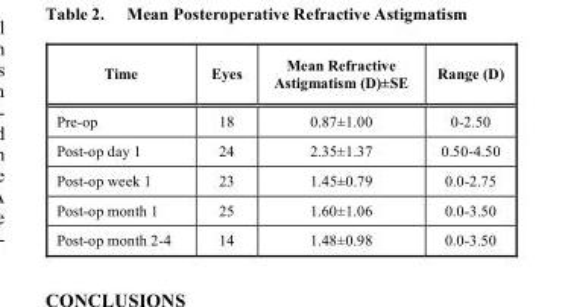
<table><thead><tr><td>Time</td><td>Eyes</td><td>Mean Refractive Astigmatism (D)±SE</td><td>Range (D)</td></tr></thead><tbody><tr><td>Pre-op</td><td>18</td><td>0.87±1.00</td><td>0-2.50</td></tr><tr><td>Post-op day 1</td><td>24</td><td>2.35±1.37</td><td>0.50-4.50</td></tr><tr><td>Post-op week 1</td><td>23</td><td>1.45±0.79</td><td>0.0-2.75</td></tr><tr><td>Post-op month 1</td><td>25</td><td>1.60±1.06</td><td>0.0-3.50</td></tr><tr><td>Post-op month 2-4</td><td>14</td><td>1.48±0.98</td><td>0.0-3.50</td></tr></tbody></table>